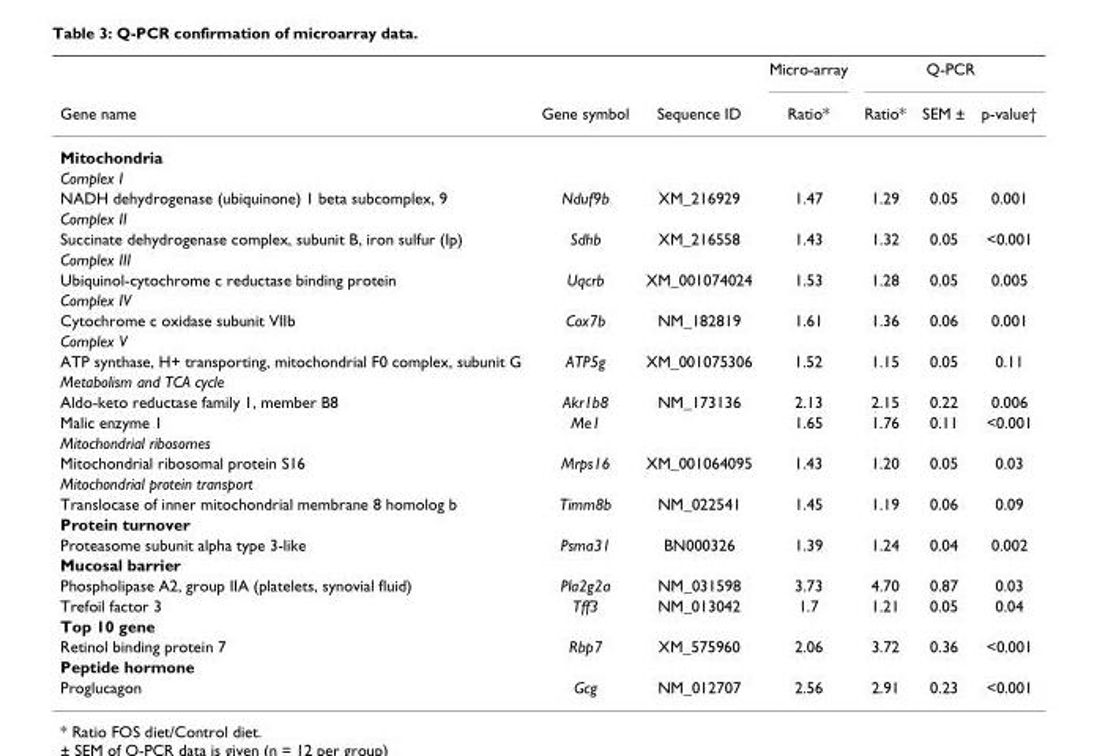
<table><thead><tr><td rowspan="2">Gene name</td><td rowspan="2">Gene symbol</td><td rowspan="2">Sequence ID</td><td rowspan="2">Micro-array Ratio*</td><td colspan="3">Q-PCR</td></tr><tr><td>Ratio*</td><td>SEM ±</td><td>p-value†</td></tr></thead><tbody><tr><td colspan="7">Mitochondria</td></tr><tr><td colspan="7">Complex I</td></tr><tr><td>NADH dehydrogenase (ubiquinone) 1 beta subcomplex, 9</td><td>Nduf9b</td><td>XM_216929</td><td>1.47</td><td>1.29</td><td>0.05</td><td>0.001</td></tr><tr><td colspan="7">Complex II</td></tr><tr><td>Succinate dehydrogenase complex, subunit B, iron sulfur (Ip)</td><td>Sdhb</td><td>XM_216558</td><td>1.43</td><td>1.32</td><td>0.05</td><td>&lt;0.001</td></tr><tr><td colspan="7">Complex III</td></tr><tr><td>Ubiquinol-cytochrome c reductase binding protein</td><td>Uqcrb</td><td>XM_001074024</td><td>1.53</td><td>1.28</td><td>0.05</td><td>0.005</td></tr><tr><td colspan="7">Complex IV</td></tr><tr><td>Cytochrome c oxidase subunit VIIb</td><td>Cox7b</td><td>NM_182819</td><td>1.61</td><td>1.36</td><td>0.06</td><td>0.001</td></tr><tr><td colspan="7">Complex V</td></tr><tr><td>ATP synthase, H+ transporting, mitochondrial F0 complex, subunit G</td><td>ATP5g</td><td>XM_001075306</td><td>1.52</td><td>1.15</td><td>0.05</td><td>0.11</td></tr><tr><td colspan="7">Metabolism and TCA cycle</td></tr><tr><td>Aldo-keto reductase family 1, member B8</td><td>Akr1b8</td><td>NM_173136</td><td>2.13</td><td>2.15</td><td>0.22</td><td>0.006</td></tr><tr><td>Malic enzyme 1</td><td>Me1</td><td></td><td>1.65</td><td>1.76</td><td>0.11</td><td>&lt;0.001</td></tr><tr><td colspan="7">Mitochondrial ribosomes</td></tr><tr><td>Mitochondrial ribosomal protein S16</td><td>Mrps16</td><td>XM_001064095</td><td>1.43</td><td>1.20</td><td>0.05</td><td>0.03</td></tr><tr><td colspan="7">Mitochondrial protein transport</td></tr><tr><td>Translocase of inner mitochondrial membrane 8 homolog b</td><td>Timm8b</td><td>NM_022541</td><td>1.45</td><td>1.19</td><td>0.06</td><td>0.09</td></tr><tr><td colspan="7">Protein turnover</td></tr><tr><td>Proteasome subunit alpha type 3-like</td><td>Psma31</td><td>BN000326</td><td>1.39</td><td>1.24</td><td>0.04</td><td>0.002</td></tr><tr><td colspan="7">Mucosal barrier</td></tr><tr><td>Phospholipase A2, group IIA (platelets, synovial fluid)</td><td>Pla2g2a</td><td>NM_031598</td><td>3.73</td><td>4.70</td><td>0.87</td><td>0.03</td></tr><tr><td>Trefoil factor 3</td><td>Tff3</td><td>NM_013042</td><td>1.7</td><td>1.21</td><td>0.05</td><td>0.04</td></tr><tr><td colspan="7">Top 10 gene</td></tr><tr><td>Retinol binding protein 7</td><td>Rbp7</td><td>XM_575960</td><td>2.06</td><td>3.72</td><td>0.36</td><td>&lt;0.001</td></tr><tr><td colspan="7">Peptide hormone</td></tr><tr><td>Proglucagon</td><td>Gcg</td><td>NM_012707</td><td>2.56</td><td>2.91</td><td>0.23</td><td>&lt;0.001</td></tr></tbody></table>